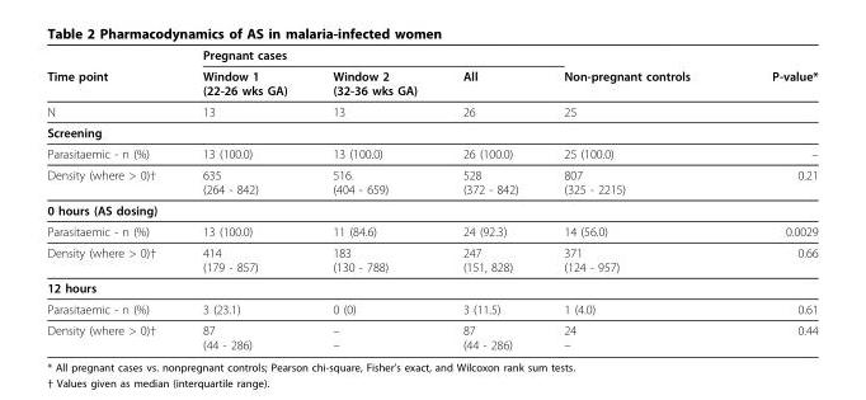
<table><thead><tr><td rowspan="2">Time point</td><td colspan="3">Pregnant cases</td><td rowspan="2">Non-pregnant controls</td><td rowspan="2">P-value*</td></tr><tr><td>Window 1 (22-26 wks GA)</td><td>Window 2 (32-36 wks GA)</td><td>All</td></tr></thead><tbody><tr><td>N</td><td>13</td><td>13</td><td>26</td><td>25</td><td></td></tr><tr><td colspan="6">Screening</td></tr><tr><td>Parasitaemic - n (%)</td><td>13 (100.0)</td><td>13 (100.0)</td><td>26 (100.0)</td><td>25 (100.0)</td><td>–</td></tr><tr><td>Density (where &gt; 0)†</td><td>635 (264 - 842)</td><td>516. (404 - 659)</td><td>528 (372 - 842)</td><td>807 (325 - 2215)</td><td>0.21</td></tr><tr><td colspan="6">0 hours (AS dosing)</td></tr><tr><td>Parasitaemic - n (%)</td><td>13 (100.0)</td><td>11 (84.6)</td><td>24 (92.3)</td><td>14 (56.0)</td><td>0.0029</td></tr><tr><td>Density (where &gt; 0)†</td><td>414 (179 - 857)</td><td>183 (130 - 788)</td><td>247 (151, 828)</td><td>371 (124 - 957)</td><td>0.66</td></tr><tr><td colspan="6">12 hours</td></tr><tr><td>Parasitaemic - n (%)</td><td>3 (23.1)</td><td>0 (0)</td><td>3 (11.5)</td><td>1 (4.0)</td><td>0.61</td></tr><tr><td>Density (where &gt; 0)†</td><td>87 (44 - 286)</td><td>– –</td><td>87 (44 - 286)</td><td>24 –</td><td>0.44</td></tr></tbody></table>